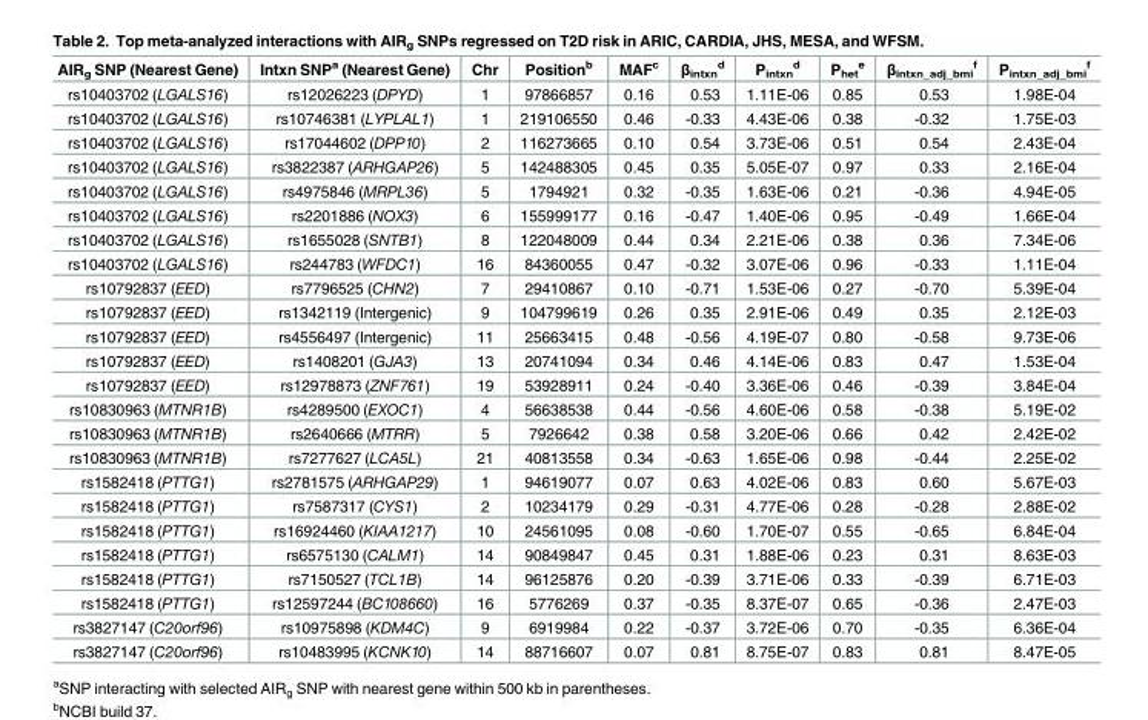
<table><thead><tr><td>AIR<sub>g</sub> SNP (Nearest Gene)</td><td>Intxn SNP<sup>a</sup> (Nearest Gene)</td><td>Chr</td><td>Position<sup>b</sup></td><td>MAF<sup>c</sup></td><td>β<sub>intxn</sub> <sup>d</sup></td><td>P<sub>intxn</sub> <sup>d</sup></td><td>P<sub>het</sub> <sup>e</sup></td><td>β<sub>intxn_adj_bmi</sub> <sup>f</sup></td><td>P<sub>intxn_adj_bmi</sub> <sup>f</sup></td></tr></thead><tbody><tr><td>rs10403702 (LGALS16)</td><td>rs12026223 (DPYD)</td><td>1</td><td>97866857</td><td>0.16</td><td>0.53</td><td>1.11E-06</td><td>0.85</td><td>0.53</td><td>1.98E-04</td></tr><tr><td>rs10403702 (LGALS16)</td><td>rs10746381 (LYPLAL1)</td><td>1</td><td>219106550</td><td>0.46</td><td>-0.33</td><td>4.43E-06</td><td>0.38</td><td>-0.32</td><td>1.75E-03</td></tr><tr><td>rs10403702 (LGALS16)</td><td>rs17044602 (DPP10)</td><td>2</td><td>116273665</td><td>0.10</td><td>0.54</td><td>3.73E-06</td><td>0.51</td><td>0.54</td><td>2.43E-04</td></tr><tr><td>rs10403702 (LGALS16)</td><td>rs3822387 (ARHGAP26)</td><td>5</td><td>142488305</td><td>0.45</td><td>0.35</td><td>5.05E-07</td><td>0.97</td><td>0.33</td><td>2.16E-04</td></tr><tr><td>rs10403702 (LGALS16)</td><td>rs4975846 (MRPL36)</td><td>5</td><td>1794921</td><td>0.32</td><td>-0.35</td><td>1.63E-06</td><td>0.21</td><td>-0.36</td><td>4.94E-05</td></tr><tr><td>rs10403702 (LGALS16)</td><td>rs2201886 (NOX3)</td><td>6</td><td>155999177</td><td>0.16</td><td>-0.47</td><td>1.40E-06</td><td>0.95</td><td>-0.49</td><td>1.66E-04</td></tr><tr><td>rs10403702 (LGALS16)</td><td>rs1655028 (SNTB1)</td><td>8</td><td>122048009</td><td>0.44</td><td>0.34</td><td>2.21E-06</td><td>0.38</td><td>0.36</td><td>7.34E-06</td></tr><tr><td>rs10403702 (LGALS16)</td><td>rs244783 (WFDC1)</td><td>16</td><td>84360055</td><td>0.47</td><td>-0.32</td><td>3.07E-06</td><td>0.96</td><td>-0.33</td><td>1.11E-04</td></tr><tr><td>rs10792837 (EED)</td><td>rs7796525 (CHN2)</td><td>7</td><td>29410867</td><td>0.10</td><td>-0.71</td><td>1.53E-06</td><td>0.27</td><td>-0.70</td><td>5.39E-04</td></tr><tr><td>rs10792837 (EED)</td><td>rs1342119 (Intergenic)</td><td>9</td><td>104799619</td><td>0.26</td><td>0.35</td><td>2.91E-06</td><td>0.49</td><td>0.35</td><td>2.12E-03</td></tr><tr><td>rs10792837 (EED)</td><td>rs4556497 (Intergenic)</td><td>11</td><td>25663415</td><td>0.48</td><td>-0.56</td><td>4.19E-07</td><td>0.80</td><td>-0.58</td><td>9.73E-06</td></tr><tr><td>rs10792837 (EED)</td><td>rs1408201 (GJA3)</td><td>13</td><td>20741094</td><td>0.34</td><td>0.46</td><td>4.14E-06</td><td>0.83</td><td>0.47</td><td>1.53E-04</td></tr><tr><td>rs10792837 (EED)</td><td>rs12978873 (ZNF761)</td><td>19</td><td>53928911</td><td>0.24</td><td>-0.40</td><td>3.36E-06</td><td>0.46</td><td>-0.39</td><td>3.84E-04</td></tr><tr><td>rs10830963 (MTNR1B)</td><td>rs4289500 (EXOC1)</td><td>4</td><td>56638538</td><td>0.44</td><td>-0.56</td><td>4.60E-06</td><td>0.58</td><td>-0.38</td><td>5.19E-02</td></tr><tr><td>rs10830963 (MTNR1B)</td><td>rs2640666 (MTRR)</td><td>5</td><td>7926642</td><td>0.38</td><td>0.58</td><td>3.20E-06</td><td>0.66</td><td>0.42</td><td>2.42E-02</td></tr><tr><td>rs10830963 (MTNR1B)</td><td>rs7277627 (LCA5L)</td><td>21</td><td>40813558</td><td>0.34</td><td>-0.63</td><td>1.65E-06</td><td>0.98</td><td>-0.44</td><td>2.25E-02</td></tr><tr><td>rs1582418 (PTTG1)</td><td>rs2781575 (ARHGAP29)</td><td>1</td><td>94619077</td><td>0.07</td><td>0.63</td><td>4.02E-06</td><td>0.83</td><td>0.60</td><td>5.67E-03</td></tr><tr><td>rs1582418 (PTTG1)</td><td>rs7587317 (CYS1)</td><td>2</td><td>10234179</td><td>0.29</td><td>-0.31</td><td>4.77E-06</td><td>0.28</td><td>-0.28</td><td>2.88E-02</td></tr><tr><td>rs1582418 (PTTG1)</td><td>rs16924460 (KIAA1217)</td><td>10</td><td>24561095</td><td>0.08</td><td>-0.60</td><td>1.70E-07</td><td>0.55</td><td>-0.65</td><td>6.84E-04</td></tr><tr><td>rs1582418 (PTTG1)</td><td>rs6575130 (CALM1)</td><td>14</td><td>90849847</td><td>0.45</td><td>0.31</td><td>1.88E-06</td><td>0.23</td><td>0.31</td><td>8.63E-03</td></tr><tr><td>rs1582418 (PTTG1)</td><td>rs7150527 (TCL1B)</td><td>14</td><td>96125876</td><td>0.20</td><td>-0.39</td><td>3.71E-06</td><td>0.33</td><td>-0.39</td><td>6.71E-03</td></tr><tr><td>rs1582418 (PTTG1)</td><td>rs12597244 (BC108660)</td><td>16</td><td>5776269</td><td>0.37</td><td>-0.35</td><td>8.37E-07</td><td>0.65</td><td>-0.36</td><td>2.47E-03</td></tr><tr><td>rs3827147 (C20orf96)</td><td>rs10975898 (KDM4C)</td><td>9</td><td>6919984</td><td>0.22</td><td>-0.37</td><td>3.72E-06</td><td>0.70</td><td>-0.35</td><td>6.36E-04</td></tr><tr><td>rs3827147 (C20orf96)</td><td>rs10483995 (KCNK10)</td><td>14</td><td>88716607</td><td>0.07</td><td>0.81</td><td>8.75E-07</td><td>0.83</td><td>0.81</td><td>8.47E-05</td></tr></tbody></table>